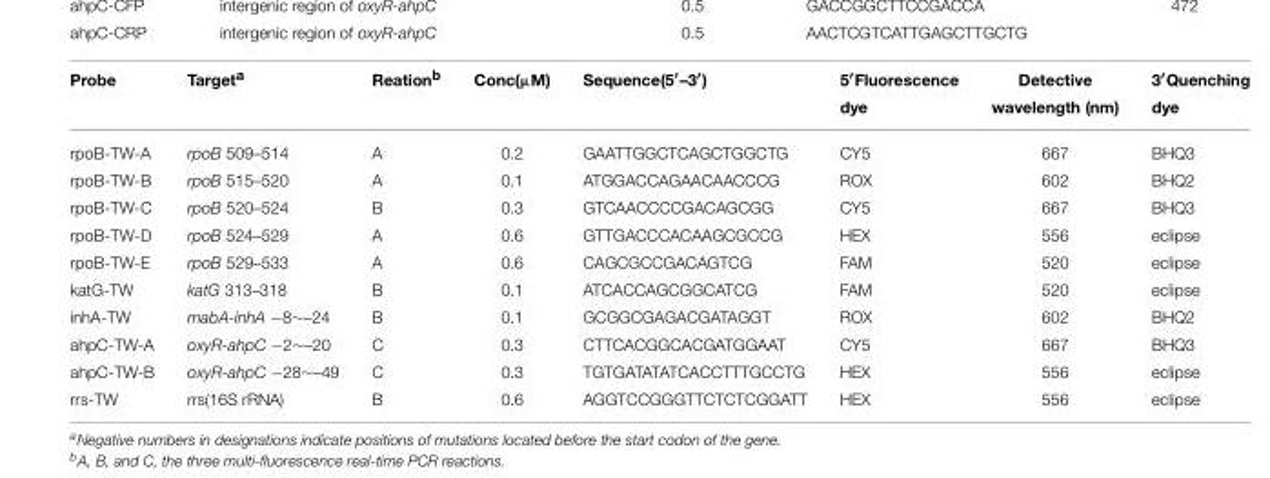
<table><thead><tr><td>Probe</td><td>Target<sup>a</sup></td><td>Reation<sup>b</sup></td><td>Conc(µM)</td><td>Sequence(5′–3′)</td><td>5′Fluorescence dye</td><td>Detective wavelength (nm)</td><td>dye</td></tr></thead><tbody><tr><td>rpoB-TW-A</td><td>rpoB 509–514</td><td>A</td><td>0.2</td><td>GAATTGGCTCAGCTGGCTG</td><td>CY5</td><td>667</td><td>BHQ3</td></tr><tr><td>rpoB-TW-B</td><td>rpoB 515–520</td><td>A</td><td>0.1</td><td>ATGGACCAGAACAACCCG</td><td>ROX</td><td>602</td><td>BHQ2</td></tr><tr><td>rpoB-TW-C</td><td>rpoB 520–524</td><td>B</td><td>0.3</td><td>GTCAACCCCGACAGCGG</td><td>CY5</td><td>667</td><td>BHQ3</td></tr><tr><td>rpoB-TW-D</td><td>rpoB 524–529</td><td>A</td><td>0.6</td><td>GTTGACCCACAAGCGCCG</td><td>HEX</td><td>556</td><td>eclipse</td></tr><tr><td>rpoB-TW-E</td><td>rpoB 529–533</td><td>A</td><td>0.6</td><td>CAGCGCCGACAGTCG</td><td>FAM</td><td>520</td><td>eclipse</td></tr><tr><td>katG-TW</td><td>katG 313–318</td><td>B</td><td>0.1</td><td>ATCACCAGCGGCATCG</td><td>FAM</td><td>520</td><td>eclipse</td></tr><tr><td>inhA-TW</td><td>mabA-inhA −8∼–24</td><td>B</td><td>0.1</td><td>GCGGCGAGACGATAGGT</td><td>ROX</td><td>602</td><td>BHQ2</td></tr><tr><td>ahpC-TW-A</td><td>oxyR-ahpC −2∼–20</td><td>C</td><td>0.3</td><td>CTTCACGGCACGATGGAAT</td><td>CY5</td><td>667</td><td>BHQ3</td></tr><tr><td>ahpC-TW-B</td><td>oxyR-ahpC −28∼–49</td><td>C</td><td>0.3</td><td>TGTGATATATCACCTTTGCCTG</td><td>HEX</td><td>556</td><td>eclipse</td></tr><tr><td>rrs-TW</td><td>rrs(16S rRNA)</td><td>B</td><td>0.6</td><td>AGGTCCGGGTTCTCTCGGATT</td><td>HEX</td><td>556</td><td>eclipse</td></tr></tbody></table>